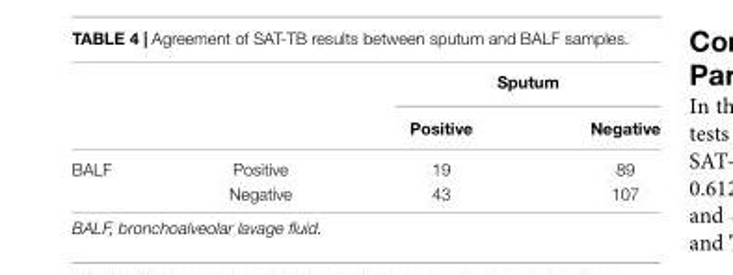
<table><thead><tr><td rowspan="2"></td><td rowspan="2"></td><td colspan="2">Sputum</td></tr><tr><td>Positive</td><td>Negative</td></tr></thead><tbody><tr><td rowspan="2">BALF</td><td>Positive</td><td>19</td><td>89</td></tr><tr><td>Negative</td><td>43</td><td>107</td></tr></tbody></table>